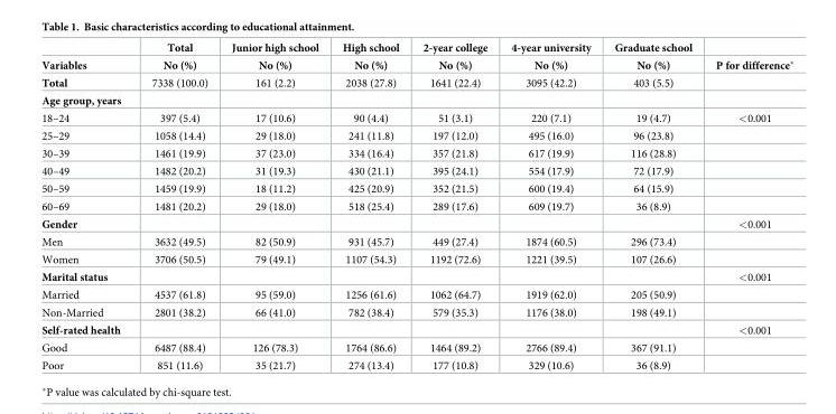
<table><thead><tr><td rowspan="2">Variables</td><td rowspan="2">Total No (%)</td><td rowspan="2">Junior high school No (%)</td><td rowspan="2">High school No (%)</td><td rowspan="2">2-year college No (%)</td><td rowspan="2">4-year university No (%)</td><td rowspan="2">Graduate school No (%)</td><td rowspan="2">P for difference*</td></tr><tr></tr></thead><tbody><tr><td>Total</td><td>7338 (100.0)</td><td>161 (2.2)</td><td>2038 (27.8)</td><td>1641 (22.4)</td><td>3095 (42.2)</td><td>403 (5.5)</td><td></td></tr><tr><td colspan="8">Age group, years</td></tr><tr><td>18–24</td><td>397 (5.4)</td><td>17 (10.6)</td><td>90 (4.4)</td><td>51 (3.1)</td><td>220 (7.1)</td><td>19 (4.7)</td><td>&lt;0.001</td></tr><tr><td>25–29</td><td>1058 (14.4)</td><td>29 (18.0)</td><td>241 (11.8)</td><td>197 (12.0)</td><td>495 (16.0)</td><td>96 (23.8)</td><td></td></tr><tr><td>30–39</td><td>1461 (19.9)</td><td>37 (23.0)</td><td>334 (16.4)</td><td>357 (21.8)</td><td>617 (19.9)</td><td>116 (28.8)</td><td></td></tr><tr><td>40–49</td><td>1482 (20.2)</td><td>31 (19.3)</td><td>430 (21.1)</td><td>395 (24.1)</td><td>554 (17.9)</td><td>72 (17.9)</td><td></td></tr><tr><td>50–59</td><td>1459 (19.9)</td><td>18 (11.2)</td><td>425 (20.9)</td><td>352 (21.5)</td><td>600 (19.4)</td><td>64 (15.9)</td><td></td></tr><tr><td>60–69</td><td>1481 (20.2)</td><td>29 (18.0)</td><td>518 (25.4)</td><td>289 (17.6)</td><td>609 (19.7)</td><td>36 (8.9)</td><td></td></tr><tr><td>Gender</td><td></td><td></td><td></td><td></td><td></td><td></td><td>&lt;0.001</td></tr><tr><td>Men</td><td>3632 (49.5)</td><td>82 (50.9)</td><td>931 (45.7)</td><td>449 (27.4)</td><td>1874 (60.5)</td><td>296 (73.4)</td><td></td></tr><tr><td>Women</td><td>3706 (50.5)</td><td>79 (49.1)</td><td>1107 (54.3)</td><td>1192 (72.6)</td><td>1221 (39.5)</td><td>107 (26.6)</td><td></td></tr><tr><td>Marital status</td><td></td><td></td><td></td><td></td><td></td><td></td><td>&lt;0.001</td></tr><tr><td>Married</td><td>4537 (61.8)</td><td>95 (59.0)</td><td>1256 (61.6)</td><td>1062 (64.7)</td><td>1919 (62.0)</td><td>205 (50.9)</td><td></td></tr><tr><td>Non-Married</td><td>2801 (38.2)</td><td>66 (41.0)</td><td>782 (38.4)</td><td>579 (35.3)</td><td>1176 (38.0)</td><td>198 (49.1)</td><td></td></tr><tr><td>Self-rated health</td><td></td><td></td><td></td><td></td><td></td><td></td><td>&lt;0.001</td></tr><tr><td>Good</td><td>6487 (88.4)</td><td>126 (78.3)</td><td>1764 (86.6)</td><td>1464 (89.2)</td><td>2766 (89.4)</td><td>367 (91.1)</td><td></td></tr><tr><td>Poor</td><td>851 (11.6)</td><td>35 (21.7)</td><td>274 (13.4)</td><td>177 (10.8)</td><td>329 (10.6)</td><td>36 (8.9)</td><td></td></tr></tbody></table>